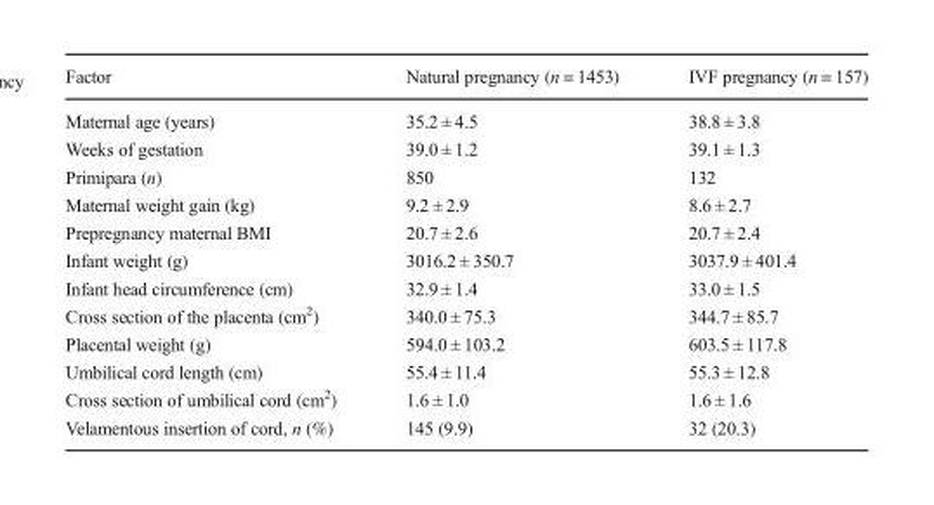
<table><thead><tr><td>Factor</td><td>Natural pregnancy (n = 1453)</td><td>IVF pregnancy (n = 157)</td></tr></thead><tbody><tr><td>Maternal age (years)</td><td>35.2 ± 4.5</td><td>38.8 ± 3.8</td></tr><tr><td>Weeks of gestation</td><td>39.0 ± 1.2</td><td>39.1 ± 1.3</td></tr><tr><td>Primipara (n)</td><td>850</td><td>132</td></tr><tr><td>Maternal weight gain (kg)</td><td>9.2 ± 2.9</td><td>8.6 ± 2.7</td></tr><tr><td>Prepregnancy maternal BMI</td><td>20.7 ± 2.6</td><td>20.7 ± 2.4</td></tr><tr><td>Infant weight (g)</td><td>3016.2 ± 350.7</td><td>3037.9 ± 401.4</td></tr><tr><td>Infant head circumference (cm)</td><td>32.9 ± 1.4</td><td>33.0 ± 1.5</td></tr><tr><td>Cross section of the placenta (cm<sup>2</sup>)</td><td>340.0 ± 75.3</td><td>344.7 ± 85.7</td></tr><tr><td>Placental weight (g)</td><td>594.0 ± 103.2</td><td>603.5 ± 117.8</td></tr><tr><td>Umbilical cord length (cm)</td><td>55.4 ± 11.4</td><td>55.3 ± 12.8</td></tr><tr><td>Cross section of umbilical cord (cm<sup>2</sup>)</td><td>1.6 ± 1.0</td><td>1.6 ± 1.6</td></tr><tr><td>Velamentous insertion of cord, n (%)</td><td>145 (9.9)</td><td>32 (20.3)</td></tr></tbody></table>